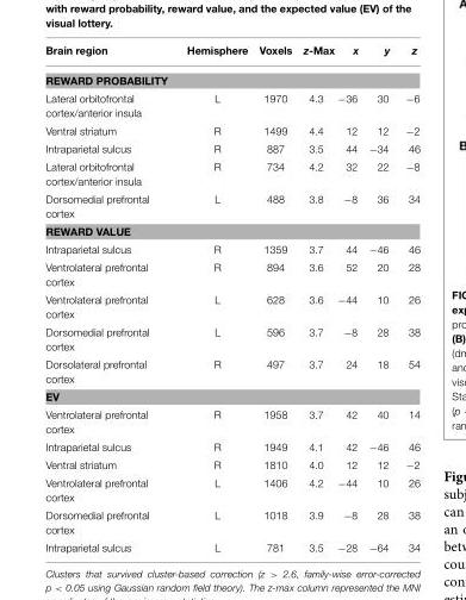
<table><thead><tr><td>Brain region</td><td>Hemisphere</td><td>Voxels</td><td>z-Max</td><td>x</td><td>y</td><td>z</td></tr></thead><tbody><tr><td colspan="7">REWARD PROBABILITY</td></tr><tr><td>Lateral orbitofrontal cortex/anterior insula</td><td>L</td><td>1970</td><td>4.3</td><td>−36</td><td>30</td><td>−6</td></tr><tr><td>Ventral striatum</td><td>R</td><td>1499</td><td>4.4</td><td>12</td><td>12</td><td>−2</td></tr><tr><td>Intraparietal sulcus</td><td>R</td><td>887</td><td>3.5</td><td>44</td><td>−34</td><td>46</td></tr><tr><td>Lateral orbitofrontal cortex/anterior insula</td><td>R</td><td>734</td><td>4.2</td><td>32</td><td>22</td><td>−8</td></tr><tr><td>Dorsomedial prefrontal cortex</td><td>L</td><td>488</td><td>3.8</td><td>−8</td><td>36</td><td>34</td></tr><tr><td colspan="7">REWARD VALUE</td></tr><tr><td>Intraparietal sulcus</td><td>R</td><td>1359</td><td>3.7</td><td>44</td><td>−46</td><td>46</td></tr><tr><td>Ventrolateral prefrontal cortex</td><td>R</td><td>894</td><td>3.6</td><td>52</td><td>20</td><td>28</td></tr><tr><td>Ventrolateral prefrontal cortex</td><td>L</td><td>628</td><td>3.6</td><td>−44</td><td>10</td><td>26</td></tr><tr><td>Dorsomedial prefrontal cortex</td><td>L</td><td>596</td><td>3.7</td><td>−8</td><td>28</td><td>38</td></tr><tr><td>Dorsolateral prefrontal cortex</td><td>R</td><td>497</td><td>3.7</td><td>24</td><td>18</td><td>54</td></tr><tr><td colspan="7">EV</td></tr><tr><td>Ventrolateral prefrontal cortex</td><td>R</td><td>1958</td><td>3.7</td><td>42</td><td>40</td><td>14</td></tr><tr><td>Intraparietal sulcus</td><td>R</td><td>1949</td><td>4.1</td><td>42</td><td>−46</td><td>46</td></tr><tr><td>Ventral striatum</td><td>R</td><td>1810</td><td>4.0</td><td>12</td><td>12</td><td>−2</td></tr><tr><td>Ventrolateral prefrontal cortex</td><td>L</td><td>1406</td><td>4.2</td><td>−44</td><td>10</td><td>26</td></tr><tr><td>Dorsomedial prefrontal cortex</td><td>L</td><td>1018</td><td>3.9</td><td>−8</td><td>28</td><td>38</td></tr><tr><td>Intraparietal sulcus</td><td>L</td><td>781</td><td>3.5</td><td>−28</td><td>−64</td><td>34</td></tr></tbody></table>